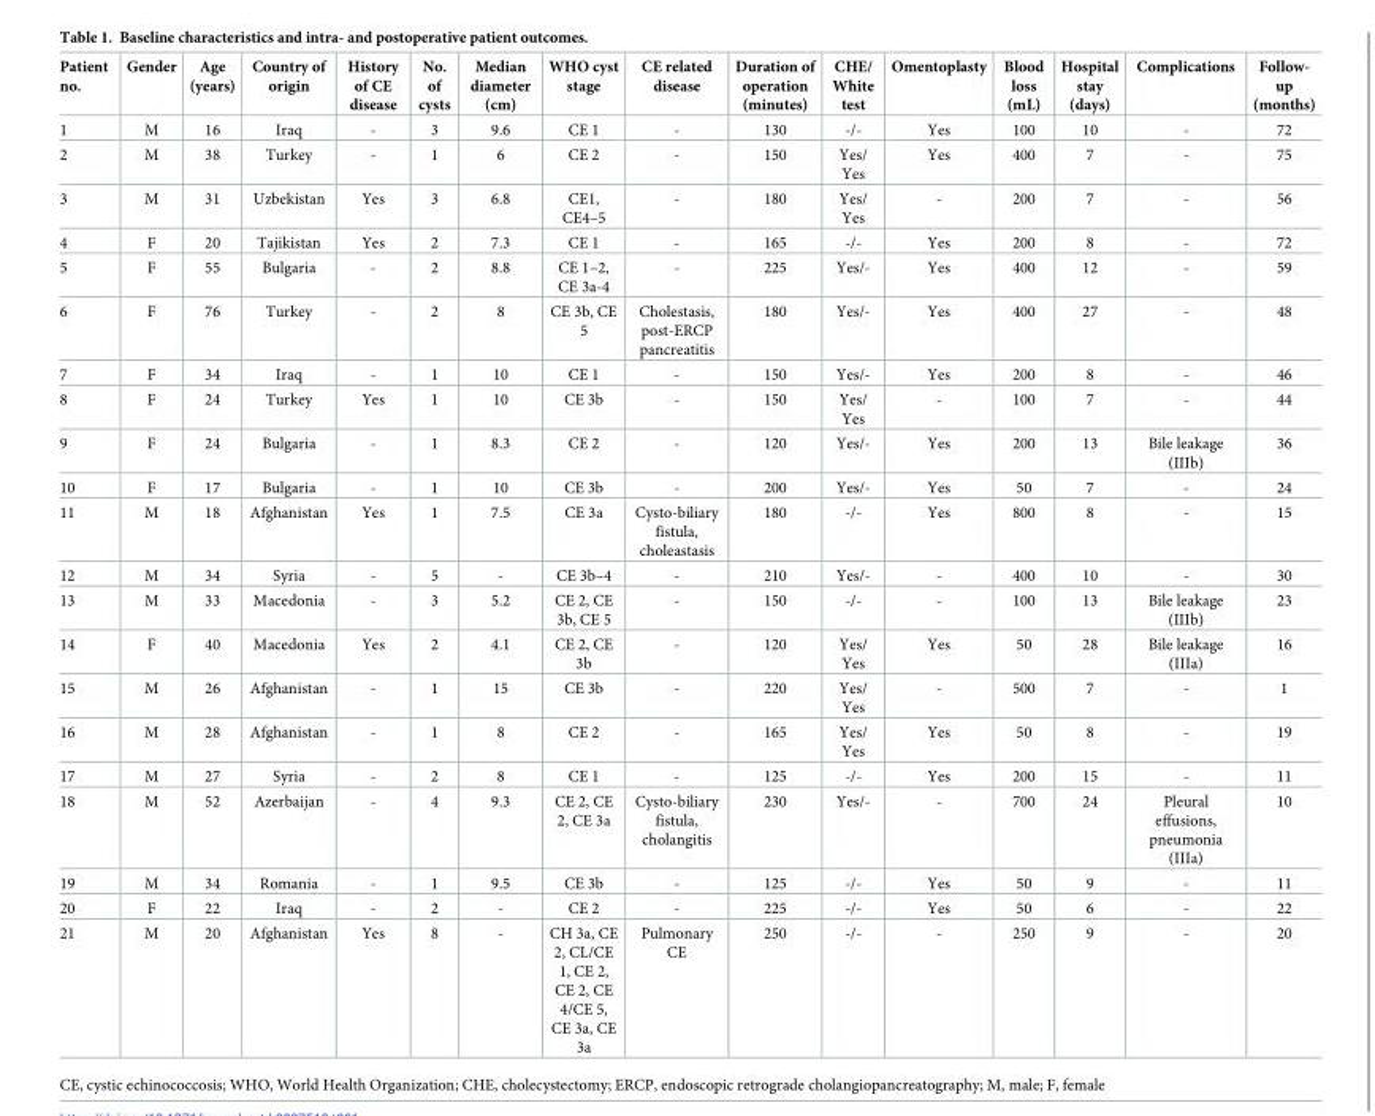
<table><thead><tr><td>Patient no.</td><td>Gender</td><td>Age (years)</td><td>Country of origin</td><td>History of CE disease</td><td>No. of cysts</td><td>Median diameter (cm)</td><td>WHO cyst stage</td><td>CE related disease</td><td>Duration of operation (minutes)</td><td>CHE/ White test</td><td>Omentoplasty</td><td>Blood loss (mL)</td><td>Hospital stay (days)</td><td>Complications</td><td>Follow- up (months)</td></tr></thead><tbody><tr><td>1</td><td>M</td><td>16</td><td>Iraq</td><td>-</td><td>3</td><td>9.6</td><td>CE 1</td><td>-</td><td>130</td><td>-/-</td><td>Yes</td><td>100</td><td>10</td><td>-</td><td>72</td></tr><tr><td>2</td><td>M</td><td>38</td><td>Turkey</td><td>-</td><td>1</td><td>6</td><td>CE 2</td><td>-</td><td>150</td><td>Yes/ Yes</td><td>Yes</td><td>400</td><td>7</td><td>-</td><td>75</td></tr><tr><td>3</td><td>M</td><td>31</td><td>Uzbekistan</td><td>Yes</td><td>3</td><td>6.8</td><td>CE1, CE4–5</td><td>-</td><td>180</td><td>Yes/ Yes</td><td>-</td><td>200</td><td>7</td><td>-</td><td>56</td></tr><tr><td>4</td><td>F</td><td>20</td><td>Tajikistan</td><td>Yes</td><td>2</td><td>7.3</td><td>CE 1</td><td>-</td><td>165</td><td>-/-</td><td>Yes</td><td>200</td><td>8</td><td>-</td><td>72</td></tr><tr><td>5</td><td>F</td><td>55</td><td>Bulgaria</td><td>-</td><td>2</td><td>8.8</td><td>CE 1–2, CE 3a-4</td><td>-</td><td>225</td><td>Yes/-</td><td>Yes</td><td>400</td><td>12</td><td>-</td><td>59</td></tr><tr><td>6</td><td>F</td><td>76</td><td>Turkey</td><td>-</td><td>2</td><td>8</td><td>CE 3b, CE 5</td><td>Cholestasis, post-ERCP pancreatitis</td><td>180</td><td>Yes/-</td><td>Yes</td><td>400</td><td>27</td><td>-</td><td>48</td></tr><tr><td>7</td><td>F</td><td>34</td><td>Iraq</td><td>-</td><td>1</td><td>10</td><td>CE 1</td><td>-</td><td>150</td><td>Yes/-</td><td>Yes</td><td>200</td><td>8</td><td>-</td><td>46</td></tr><tr><td>8</td><td>F</td><td>24</td><td>Turkey</td><td>Yes</td><td>1</td><td>10</td><td>CE 3b</td><td>-</td><td>150</td><td>Yes/ Yes</td><td>-</td><td>100</td><td>7</td><td>-</td><td>44</td></tr><tr><td>9</td><td>F</td><td>24</td><td>Bulgaria</td><td>-</td><td>1</td><td>8.3</td><td>CE 2</td><td>-</td><td>120</td><td>Yes/-</td><td>Yes</td><td>200</td><td>13</td><td>Bile leakage (IIIb)</td><td>36</td></tr><tr><td>10</td><td>F</td><td>17</td><td>Bulgaria</td><td>-</td><td>1</td><td>10</td><td>CE 3b</td><td>-</td><td>200</td><td>Yes/-</td><td>Yes</td><td>50</td><td>7</td><td>-</td><td>24</td></tr><tr><td>11</td><td>M</td><td>18</td><td>Afghanistan</td><td>Yes</td><td>1</td><td>7.5</td><td>CE 3a</td><td>Cysto-biliary fistula, choleastasis</td><td>180</td><td>-/-</td><td>Yes</td><td>800</td><td>8</td><td>-</td><td>15</td></tr><tr><td>12</td><td>M</td><td>34</td><td>Syria</td><td>-</td><td>5</td><td>-</td><td>CE 3b–4</td><td>-</td><td>210</td><td>Yes/-</td><td>-</td><td>400</td><td>10</td><td>-</td><td>30</td></tr><tr><td>13</td><td>M</td><td>33</td><td>Macedonia</td><td>-</td><td>3</td><td>5.2</td><td>CE 2, CE 3b, CE 5</td><td>-</td><td>150</td><td>-/-</td><td>-</td><td>100</td><td>13</td><td>Bile leakage (IIIb)</td><td>23</td></tr><tr><td>14</td><td>F</td><td>40</td><td>Macedonia</td><td>Yes</td><td>2</td><td>4.1</td><td>CE 2, CE 3b</td><td>-</td><td>120</td><td>Yes/ Yes</td><td>Yes</td><td>50</td><td>28</td><td>Bile leakage (IIIa)</td><td>16</td></tr><tr><td>15</td><td>M</td><td>26</td><td>Afghanistan</td><td>-</td><td>1</td><td>15</td><td>CE 3b</td><td>-</td><td>220</td><td>Yes/ Yes</td><td>-</td><td>500</td><td>7</td><td>-</td><td>1</td></tr><tr><td>16</td><td>M</td><td>28</td><td>Afghanistan</td><td>-</td><td>1</td><td>8</td><td>CE 2</td><td>-</td><td>165</td><td>Yes/ Yes</td><td>Yes</td><td>50</td><td>8</td><td>-</td><td>19</td></tr><tr><td>17</td><td>M</td><td>27</td><td>Syria</td><td>-</td><td>2</td><td>8</td><td>CE 1</td><td>-</td><td>125</td><td>-/-</td><td>Yes</td><td>200</td><td>15</td><td>-</td><td>11</td></tr><tr><td>18</td><td>M</td><td>52</td><td>Azerbaijan</td><td>-</td><td>4</td><td>9.3</td><td>CE 2, CE 2, CE 3a</td><td>Cysto-biliary fistula, cholangitis</td><td>230</td><td>Yes/-</td><td>-</td><td>700</td><td>24</td><td>Pleural effusions, pneumonia (IIIa)</td><td>10</td></tr><tr><td>19</td><td>M</td><td>34</td><td>Romania</td><td>-</td><td>1</td><td>9.5</td><td>CE 3b</td><td>-</td><td>125</td><td>-/-</td><td>Yes</td><td>50</td><td>9</td><td>-</td><td>11</td></tr><tr><td>20</td><td>F</td><td>22</td><td>Iraq</td><td>-</td><td>2</td><td>-</td><td>CE 2</td><td>-</td><td>225</td><td>-/-</td><td>Yes</td><td>50</td><td>6</td><td>-</td><td>22</td></tr><tr><td>21</td><td>M</td><td>20</td><td>Afghanistan</td><td>Yes</td><td>8</td><td>-</td><td>CH 3a, CE 2, CL/CE 1, CE 2, CE 2, CE 4/CE 5, CE 3a, CE 3a</td><td>Pulmonary CE</td><td>250</td><td>-/-</td><td>-</td><td>250</td><td>9</td><td>-</td><td>20</td></tr></tbody></table>